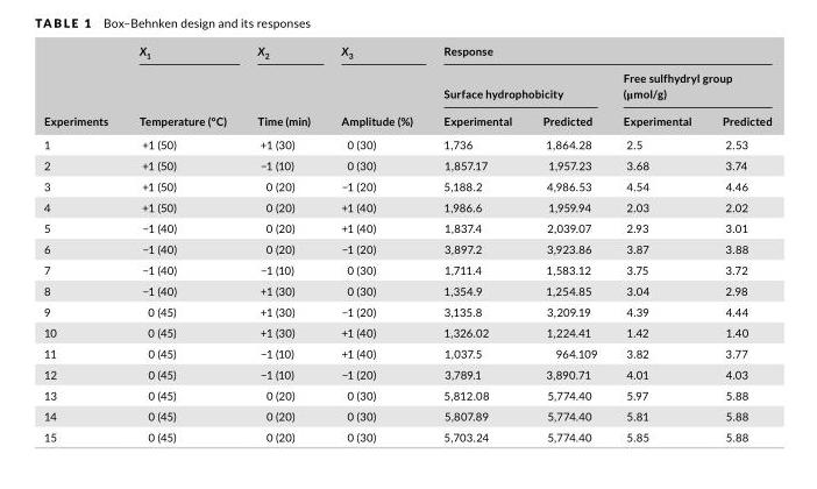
<table><thead><tr><td rowspan="3">Experiments</td><td rowspan="3">X<sub>1</sub> Temperature(°C)</td><td rowspan="3">X<sub>2</sub> Time(min)</td><td rowspan="3">X<sub>3</sub> Amplitude(%)</td><td colspan="4">Response</td></tr><tr><td colspan="2">Surfacehydrophobicity</td><td colspan="2">Freesulfhydrylgroup (μmol/g)</td></tr><tr><td>Experimental</td><td>Predicted</td><td>Experimental</td><td>Predicted</td></tr></thead><tbody><tr><td>1</td><td>+1 (50)</td><td>+1 (30)</td><td>0 (30)</td><td>1,736</td><td>1,864.28</td><td>2.5</td><td>2.53</td></tr><tr><td>2</td><td>+1 (50)</td><td>−1 (10)</td><td>0 (30)</td><td>1,857.17</td><td>1,957.23</td><td>3.68</td><td>3.74</td></tr><tr><td>3</td><td>+1 (50)</td><td>0 (20)</td><td>−1 (20)</td><td>5,188.2</td><td>4,986.53</td><td>4.54</td><td>4.46</td></tr><tr><td>4</td><td>+1 (50)</td><td>0 (20)</td><td>+1 (40)</td><td>1,986.6</td><td>1,959.94</td><td>2.03</td><td>2.02</td></tr><tr><td>5</td><td>−1 (40)</td><td>0 (20)</td><td>+1 (40)</td><td>1,837.4</td><td>2,039.07</td><td>2.93</td><td>3.01</td></tr><tr><td>6</td><td>−1 (40)</td><td>0 (20)</td><td>−1 (20)</td><td>3,897.2</td><td>3,923.86</td><td>3.87</td><td>3.88</td></tr><tr><td>7</td><td>−1 (40)</td><td>−1 (10)</td><td>0 (30)</td><td>1,711.4</td><td>1,583.12</td><td>3.75</td><td>3.72</td></tr><tr><td>8</td><td>−1 (40)</td><td>+1 (30)</td><td>0 (30)</td><td>1,354.9</td><td>1,254.85</td><td>3.04</td><td>2.98</td></tr><tr><td>9</td><td>0 (45)</td><td>+1 (30)</td><td>−1 (20)</td><td>3,135.8</td><td>3,209.19</td><td>4.39</td><td>4.44</td></tr><tr><td>10</td><td>0 (45)</td><td>+1 (30)</td><td>+1 (40)</td><td>1,326.02</td><td>1,224.41</td><td>1.42</td><td>1.40</td></tr><tr><td>11</td><td>0 (45)</td><td>−1 (10)</td><td>+1 (40)</td><td>1,037.5</td><td>964.109</td><td>3.82</td><td>3.77</td></tr><tr><td>12</td><td>0 (45)</td><td>−1 (10)</td><td>−1 (20)</td><td>3,789.1</td><td>3,890.71</td><td>4.01</td><td>4.03</td></tr><tr><td>13</td><td>0 (45)</td><td>0 (20)</td><td>0 (30)</td><td>5,812.08</td><td>5,774.40</td><td>5.97</td><td>5.88</td></tr><tr><td>14</td><td>0 (45)</td><td>0 (20)</td><td>0 (30)</td><td>5,807.89</td><td>5,774.40</td><td>5.81</td><td>5.88</td></tr><tr><td>15</td><td>0 (45)</td><td>0 (20)</td><td>0 (30)</td><td>5,703.24</td><td>5,774.40</td><td>5.85</td><td>5.88</td></tr></tbody></table>